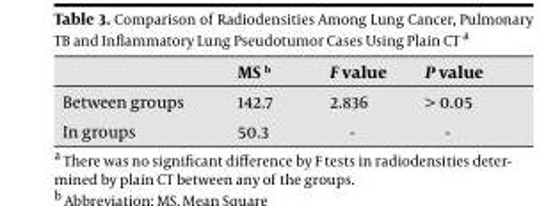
<table><thead><tr><td></td><td>MS b</td><td>F value</td><td>P value</td></tr></thead><tbody><tr><td>Between groups</td><td>142.7</td><td>2.836</td><td>&gt; 0.05</td></tr><tr><td>In groups</td><td>50.3</td><td>-</td><td>-</td></tr></tbody></table>